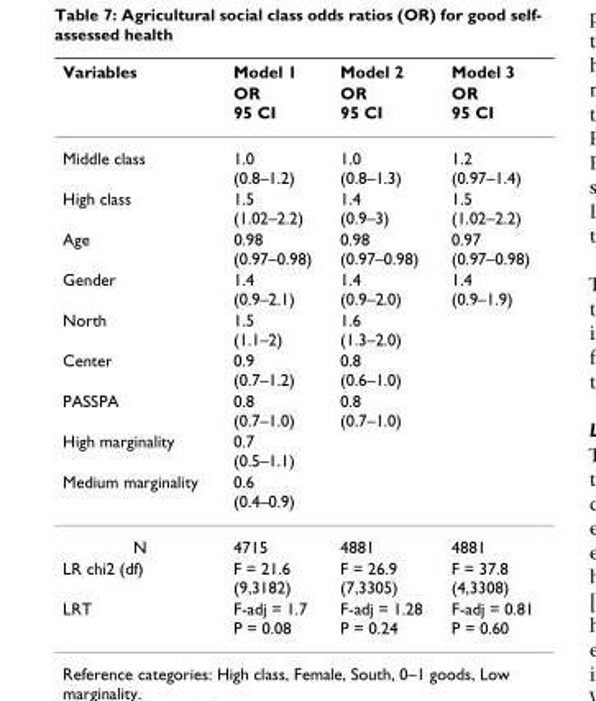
<table><thead><tr><td rowspan="2">Variables</td><td rowspan="2">Model 1 OR 95 CI</td><td rowspan="2">Model 2 OR 95 CI</td><td rowspan="2">Model 3 OR 95 CI</td></tr><tr></tr></thead><tbody><tr><td>Middle class</td><td>1.0 (0.8–1.2)</td><td>1.0 (0.8–1.3)</td><td>1.2 (0.97–1.4)</td></tr><tr><td>High class</td><td>1.5 (1.02–2.2)</td><td>1.4 (0.9–3)</td><td>1.5 (1.02–2.2)</td></tr><tr><td>Age</td><td>0.98 (0.97–0.98)</td><td>0.98 (0.97–0.98)</td><td>0.97 (0.97–0.98)</td></tr><tr><td>Gender</td><td>1.4 (0.9–2.1)</td><td>1.4 (0.9–2.0)</td><td>1.4 (0.9–1.9)</td></tr><tr><td>North</td><td>1.5 (1.1–2)</td><td>1.6 (1.3–2.0)</td><td></td></tr><tr><td>Center</td><td>0.9 (0.7–1.2)</td><td>0.8 (0.6–1.0)</td><td></td></tr><tr><td>PASSPA</td><td>0.8 (0.7–1.0)</td><td>0.8 (0.7–1.0)</td><td></td></tr><tr><td>High marginality</td><td>0.7 (0.5–1.1)</td><td></td><td></td></tr><tr><td>Medium marginality</td><td>0.6 (0.4–0.9)</td><td></td><td></td></tr><tr><td>N</td><td>4715</td><td>4881</td><td>4881</td></tr><tr><td>LR chi2 (df)</td><td>F = 21.6 (9,3182)</td><td>F = 26.9 (7,3305)</td><td>F = 37.8 (4,3308)</td></tr><tr><td>LRT</td><td>F-adj = 1.7 P = 0.08</td><td>F-adj = 1.28 P = 0.24</td><td>F-adj = 0.81 P = 0.60</td></tr></tbody></table>